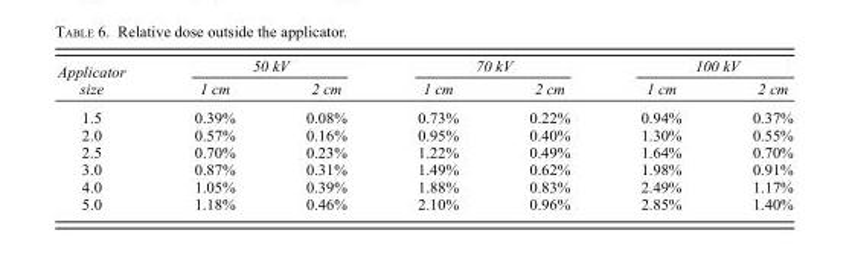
<table><thead><tr><td rowspan="2">Applicator size</td><td colspan="2">50 kV</td><td colspan="2">70 kV</td><td colspan="2">100 kV</td></tr><tr><td>1 cm</td><td>2 cm</td><td>1 cm</td><td>2 cm</td><td>1 cm</td><td>2 cm</td></tr></thead><tbody><tr><td>1.5</td><td>0.39%</td><td>0.08%</td><td>0.73%</td><td>0.22%</td><td>0.94%</td><td>0.37%</td></tr><tr><td>2.0</td><td>0.57%</td><td>0.16%</td><td>0.95%</td><td>0.40%</td><td>1.30%</td><td>0.55%</td></tr><tr><td>2.5</td><td>0.70%</td><td>0.23%</td><td>1.22%</td><td>0.49%</td><td>1.64%</td><td>0.70%</td></tr><tr><td>3.0</td><td>0.87%</td><td>0.31%</td><td>1.49%</td><td>0.62%</td><td>1.98%</td><td>0.91%</td></tr><tr><td>4.0</td><td>1.05%</td><td>0.39%</td><td>1.88%</td><td>0.83%</td><td>2.49%</td><td>1.17%</td></tr><tr><td>5.0</td><td>1.18%</td><td>0.46%</td><td>2.10%</td><td>0.96%</td><td>2.85%</td><td>1.40%</td></tr></tbody></table>